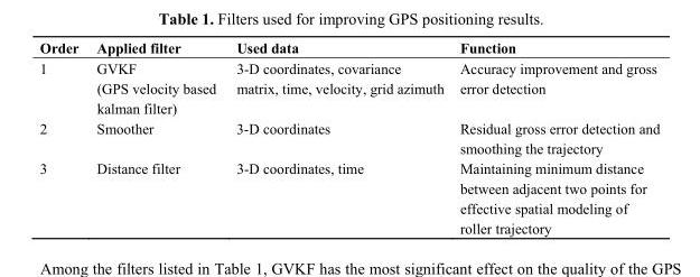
<table><thead><tr><td>Order</td><td>Applied filter</td><td>Used data</td><td>Function</td></tr></thead><tbody><tr><td>1</td><td>GVKF (GPS velocity based kalman filter)</td><td>3-D coordinates, covariance matrix, time, velocity, grid azimuth</td><td>Accuracy improvement and gross error detection</td></tr><tr><td>2</td><td>Smoother</td><td>3-D coordinates</td><td>Residual gross error detection and smoothing the trajectory</td></tr><tr><td>3</td><td>Distance filter</td><td>3-D coordinates, time</td><td>Maintaining minimum distance between adjacent two points for effective spatial modeling of roller trajectory</td></tr></tbody></table>